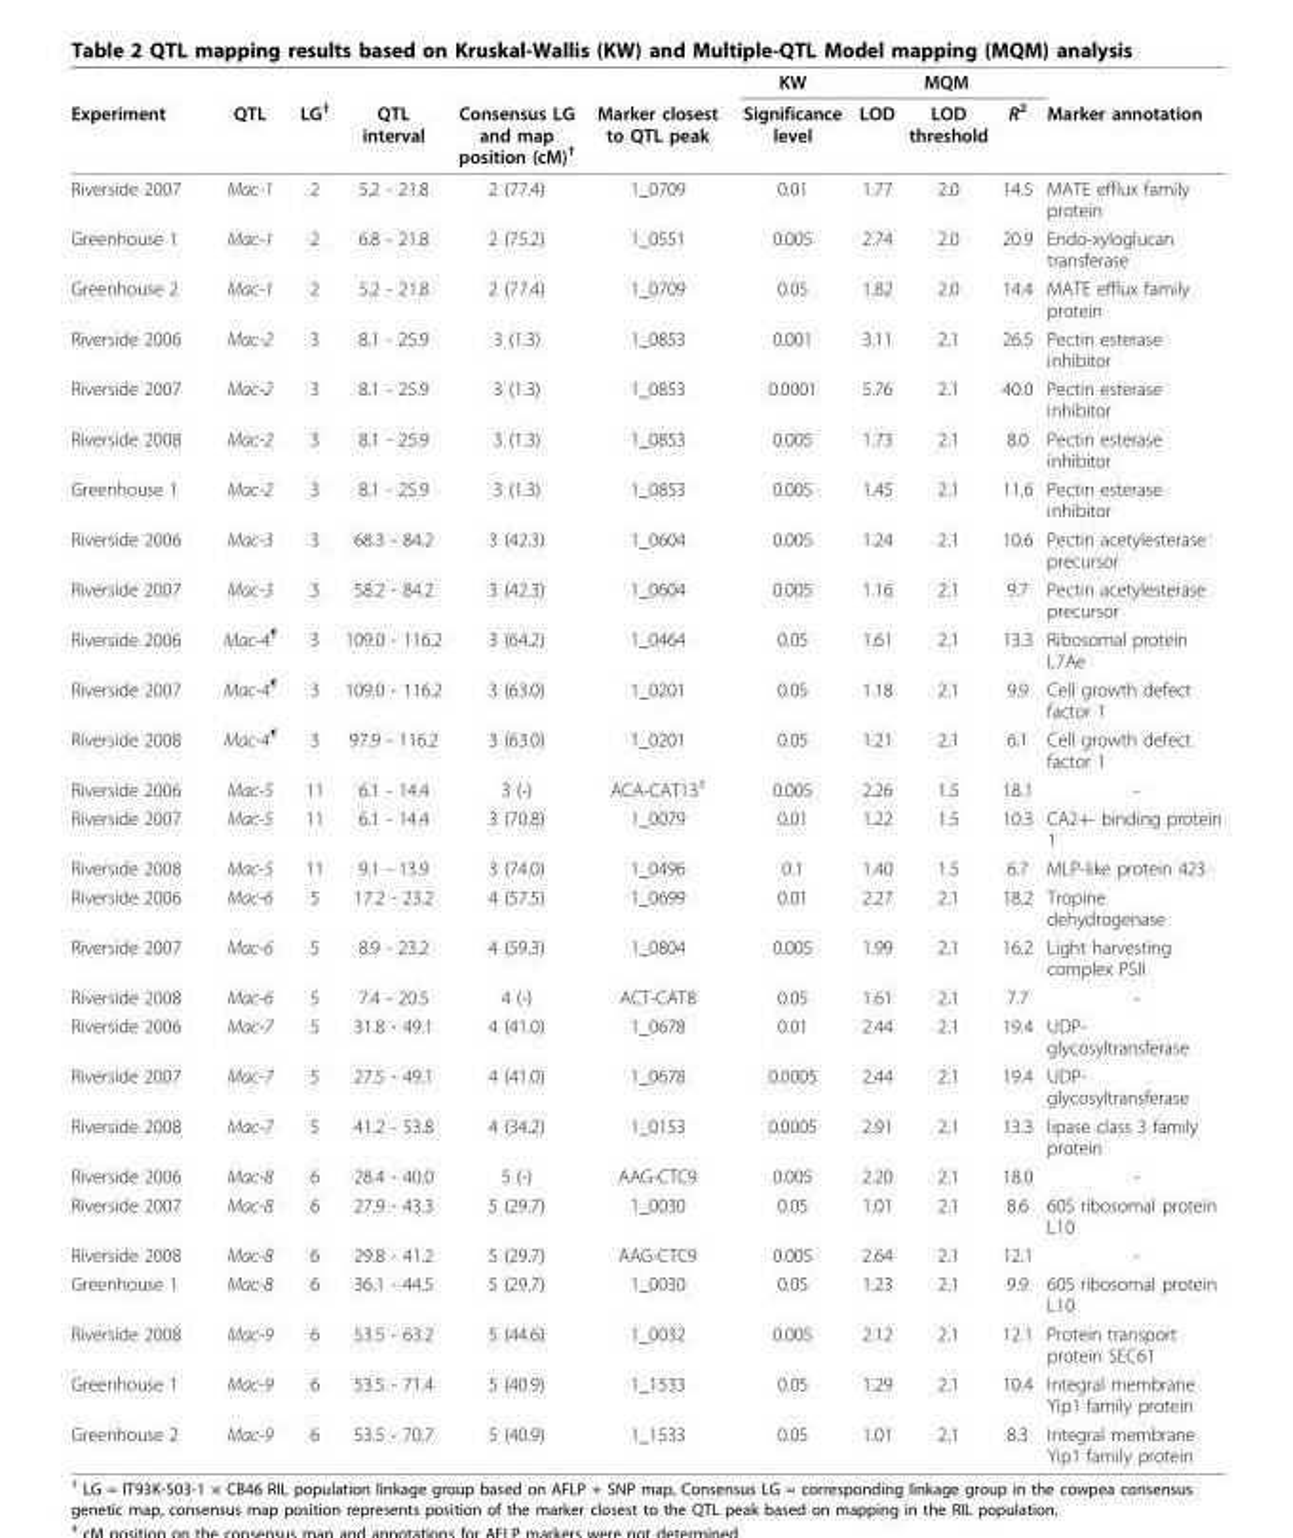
<table><thead><tr><td rowspan="2">Experiment</td><td rowspan="2">QTL</td><td rowspan="2">LG<sup>†</sup></td><td rowspan="2">QTL interval</td><td rowspan="2">Consensus LG and map position (cM)<sup>†</sup></td><td rowspan="2">Marker closest to QTL peak</td><td rowspan="2">KW Significance level</td><td colspan="3">MQM</td><td rowspan="2">Marker annotation</td></tr><tr><td>LOD</td><td>LOD threshold</td><td>R<sup>2</sup></td></tr></thead><tbody><tr><td>Riverside 2007</td><td>Mac-1</td><td>2</td><td>5.2 - 21.8</td><td>2 (77.4)</td><td>1_0709</td><td>0.01</td><td>1.77</td><td>2.0</td><td>14.5</td><td>MATE efflux family protein</td></tr><tr><td>Greenhouse 1</td><td>Mac-1</td><td>2</td><td>6.8 - 21.8</td><td>2 (75.2)</td><td>1_0551</td><td>0.005</td><td>2.74</td><td>2.0</td><td>20.9</td><td>Endo-xyloglucan transferase</td></tr><tr><td>Greenhouse 2</td><td>Mac-1</td><td>2</td><td>5.2 - 21.8</td><td>2 (77.4)</td><td>1_0709</td><td>0.05</td><td>1.82</td><td>2.0</td><td>14.4</td><td>MATE efflux family protein</td></tr><tr><td>Riverside 2006</td><td>Mac-2</td><td>3</td><td>8.1 - 25.9</td><td>3 (1.3)</td><td>1_0853</td><td>0.001</td><td>3.11</td><td>2.1</td><td>26.5</td><td>Pectin esterase inhibitor</td></tr><tr><td>Riverside 2007</td><td>Mac-2</td><td>3</td><td>8.1 - 25.9</td><td>3 (1.3)</td><td>1_0853</td><td>0.0001</td><td>5.76</td><td>2.1</td><td>40.0</td><td>Pectin esterase inhibitor</td></tr><tr><td>Riverside 2008</td><td>Mac-2</td><td>3</td><td>8.1 - 25.9</td><td>3 (1.3)</td><td>1_0853</td><td>0.005</td><td>1.73</td><td>2.1</td><td>8.0</td><td>Pectin esterase inhibitor</td></tr><tr><td>Greenhouse 1</td><td>Mac-2</td><td>3</td><td>8.1 - 25.9</td><td>3 (1.3)</td><td>1_0853</td><td>0.005</td><td>1.45</td><td>2.1</td><td>11.6</td><td>Pectin esterase inhibitor</td></tr><tr><td>Riverside 2006</td><td>Mac-3</td><td>3</td><td>68.3 - 84.2</td><td>3 (42.3)</td><td>1_0604</td><td>0.005</td><td>1.24</td><td>2.1</td><td>10.6</td><td>Pectin acetylesterase precursor</td></tr><tr><td>Riverside 2007</td><td>Mac-3</td><td>3</td><td>58.2 - 84.2</td><td>3 (42.3)</td><td>1_0604</td><td>0.005</td><td>1.16</td><td>2.1</td><td>9.7</td><td>Pectin acetylesterase precursor</td></tr><tr><td>Riverside 2006</td><td>Mac-4<sup>¶</sup></td><td>3</td><td>109.0 - 116.2</td><td>3 (64.2)</td><td>1_0464</td><td>0.05</td><td>1.61</td><td>2.1</td><td>13.3</td><td>Ribosomal protein L7Ae</td></tr><tr><td>Riverside 2007</td><td>Mac-4<sup>¶</sup></td><td>3</td><td>109.0 - 116.2</td><td>3 (63.0)</td><td>1_0201</td><td>0.05</td><td>1.18</td><td>2.1</td><td>9.9</td><td>Cell growth defect factor 1</td></tr><tr><td>Riverside 2008</td><td>Mac-4<sup>¶</sup></td><td>3</td><td>97.9 - 116.2</td><td>3 (63.0)</td><td>1_0201</td><td>0.05</td><td>1.21</td><td>2.1</td><td>6.1</td><td>Cell growth defect factor 1</td></tr><tr><td>Riverside 2006</td><td>Mac-5</td><td>11</td><td>6.1 - 14.4</td><td>3 (-)</td><td>ACA-CAT13<sup>‡</sup></td><td>0.005</td><td>2.26</td><td>1.5</td><td>18.1</td><td>-</td></tr><tr><td>Riverside 2007</td><td>Mac-5</td><td>11</td><td>6.1 - 14.4</td><td>3 (70.8)</td><td>1_0079</td><td>0.01</td><td>1.22</td><td>1.5</td><td>10.3</td><td>CA2+- binding protein 1</td></tr><tr><td>Riverside 2008</td><td>Mac-5</td><td>11</td><td>9.1 - 13.9</td><td>3 (74.0)</td><td>1_0496</td><td>0.1</td><td>1.40</td><td>1.5</td><td>6.7</td><td>MLP-like protein 423</td></tr><tr><td>Riverside 2006</td><td>Mac-6</td><td>5</td><td>17.2 - 23.2</td><td>4 (57.5)</td><td>1_0699</td><td>0.01</td><td>2.27</td><td>2.1</td><td>18.2</td><td>Tropine dehydrogenase</td></tr><tr><td>Riverside 2007</td><td>Mac-6</td><td>5</td><td>8.9 - 23.2</td><td>4 (59.3)</td><td>1_0804</td><td>0.005</td><td>1.99</td><td>2.1</td><td>16.2</td><td>Light harvesting complex PSII</td></tr><tr><td>Riverside 2008</td><td>Mac-6</td><td>5</td><td>7.4 - 20.5</td><td>4 (-)</td><td>ACT-CAT8</td><td>0.05</td><td>1.61</td><td>2.1</td><td>7.7</td><td>-</td></tr><tr><td>Riverside 2006</td><td>Mac-7</td><td>5</td><td>31.8 - 49.1</td><td>4 (41.0)</td><td>1_0678</td><td>0.01</td><td>2.44</td><td>2.1</td><td>19.4</td><td>UDP- glycosyltransferase</td></tr><tr><td>Riverside 2007</td><td>Mac-7</td><td>5</td><td>27.5 - 49.1</td><td>4 (41.0)</td><td>1_0678</td><td>0.0005</td><td>2.44</td><td>2.1</td><td>19.4</td><td>UDP- glycosyltransferase</td></tr><tr><td>Riverside 2008</td><td>Mac-7</td><td>5</td><td>41.2 - 53.8</td><td>4 (34.2)</td><td>1_0153</td><td>0.0005</td><td>2.91</td><td>2.1</td><td>13.3</td><td>lipase class 3 family protein</td></tr><tr><td>Riverside 2006</td><td>Mac-8</td><td>6</td><td>28.4 - 40.0</td><td>5 (-)</td><td>AAG-CTC9</td><td>0.005</td><td>2.20</td><td>2.1</td><td>18.0</td><td>-</td></tr><tr><td>Riverside 2007</td><td>Mac-8</td><td>6</td><td>27.9 - 43.3</td><td>5 (29.7)</td><td>1_0030</td><td>0.05</td><td>1.01</td><td>2.1</td><td>8.6</td><td>60S ribosomal protein L10</td></tr><tr><td>Riverside 2008</td><td>Mac-8</td><td>6</td><td>29.8 - 41.2</td><td>5 (29.7)</td><td>AAG-CTC9</td><td>0.005</td><td>2.64</td><td>2.1</td><td>12.1</td><td>-</td></tr><tr><td>Greenhouse 1</td><td>Mac-8</td><td>6</td><td>36.1 - 44.5</td><td>5 (29.7)</td><td>1_0030</td><td>0.05</td><td>1.23</td><td>2.1</td><td>9.9</td><td>60S ribosomal protein L10</td></tr><tr><td>Riverside 2008</td><td>Mac-9</td><td>6</td><td>53.5 - 63.2</td><td>5 (44.6)</td><td>1_0032</td><td>0.005</td><td>2.12</td><td>2.1</td><td>12.1</td><td>Protein transport protein SEC61</td></tr><tr><td>Greenhouse 1</td><td>Mac-9</td><td>6</td><td>53.5 - 71.4</td><td>5 (40.9)</td><td>1_1533</td><td>0.05</td><td>1.29</td><td>2.1</td><td>10.4</td><td>Integral membrane Yip1 family protein</td></tr><tr><td>Greenhouse 2</td><td>Mac-9</td><td>6</td><td>53.5 - 70.7</td><td>5 (40.9)</td><td>1_1533</td><td>0.05</td><td>1.01</td><td>2.1</td><td>8.3</td><td>Integral membrane Yip1 family protein</td></tr></tbody></table>